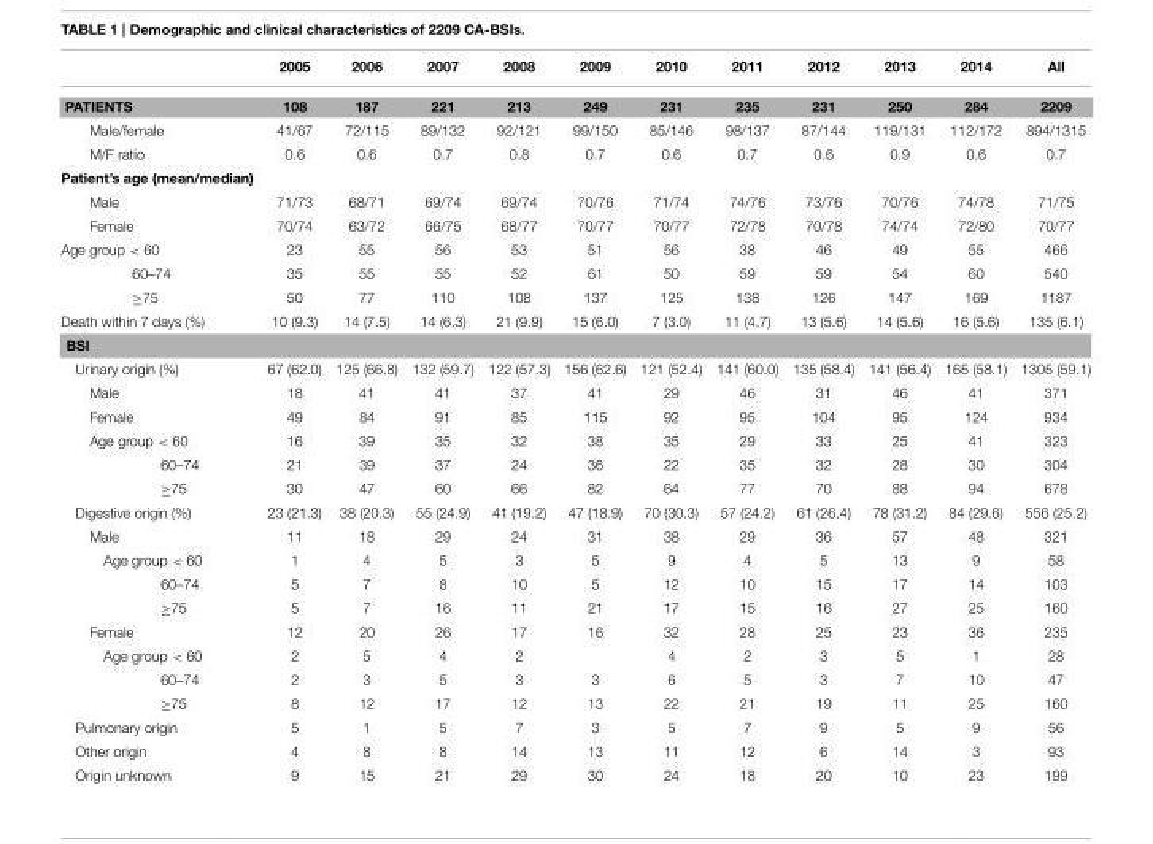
<table><thead><tr><td></td><td>2005</td><td>2006</td><td>2007</td><td>2008</td><td>2009</td><td>2010</td><td>2011</td><td>2012</td><td>2013</td><td>2014</td><td>All</td></tr></thead><tbody><tr><td>PATIENTS</td><td>108</td><td>187</td><td>221</td><td>213</td><td>249</td><td>231</td><td>235</td><td>231</td><td>250</td><td>284</td><td>2209</td></tr><tr><td>Male/female</td><td>41/67</td><td>72/115</td><td>89/132</td><td>92/121</td><td>99/150</td><td>85/146</td><td>98/137</td><td>87/144</td><td>119/131</td><td>112/172</td><td>894/1315</td></tr><tr><td>M/F ratio</td><td>0.6</td><td>0.6</td><td>0.7</td><td>0.8</td><td>0.7</td><td>0.6</td><td>0.7</td><td>0.6</td><td>0.9</td><td>0.6</td><td>0.7</td></tr><tr><td colspan="12">Patient’s age (mean/median)</td></tr><tr><td>Male</td><td>71/73</td><td>68/71</td><td>69/74</td><td>69/74</td><td>70/76</td><td>71/74</td><td>74/76</td><td>73/76</td><td>70/76</td><td>74/78</td><td>71/75</td></tr><tr><td>Female</td><td>70/74</td><td>63/72</td><td>66/75</td><td>68/77</td><td>70/77</td><td>70/77</td><td>72/78</td><td>70/78</td><td>74/74</td><td>72/80</td><td>70/77</td></tr><tr><td>Age group &lt; 60</td><td>23</td><td>55</td><td>56</td><td>53</td><td>51</td><td>56</td><td>38</td><td>46</td><td>49</td><td>55</td><td>466</td></tr><tr><td>60–74</td><td>35</td><td>55</td><td>55</td><td>52</td><td>61</td><td>50</td><td>59</td><td>59</td><td>54</td><td>60</td><td>540</td></tr><tr><td>≥75</td><td>50</td><td>77</td><td>110</td><td>108</td><td>137</td><td>125</td><td>138</td><td>126</td><td>147</td><td>169</td><td>1187</td></tr><tr><td>Death within 7 days (%)</td><td>10 (9.3)</td><td>14 (7.5)</td><td>14 (6.3)</td><td>21 (9.9)</td><td>15 (6.0)</td><td>7 (3.0)</td><td>11 (4.7)</td><td>13 (5.6)</td><td>14 (5.6)</td><td>16 (5.6)</td><td>135 (6.1)</td></tr><tr><td colspan="12">BSI</td></tr><tr><td>Urinary origin (%)</td><td>67 (62.0)</td><td>125 (66.8)</td><td>132 (59.7)</td><td>122 (57.3)</td><td>156 (62.6)</td><td>121 (52.4)</td><td>141 (60.0)</td><td>135 (58.4)</td><td>141 (56.4)</td><td>165 (58.1)</td><td>1305 (59.1)</td></tr><tr><td>Male</td><td>18</td><td>41</td><td>41</td><td>37</td><td>41</td><td>29</td><td>46</td><td>31</td><td>46</td><td>41</td><td>371</td></tr><tr><td>Female</td><td>49</td><td>84</td><td>91</td><td>85</td><td>115</td><td>92</td><td>95</td><td>104</td><td>95</td><td>124</td><td>934</td></tr><tr><td>Age group &lt; 60</td><td>16</td><td>39</td><td>35</td><td>32</td><td>38</td><td>35</td><td>29</td><td>33</td><td>25</td><td>41</td><td>323</td></tr><tr><td>60–74</td><td>21</td><td>39</td><td>37</td><td>24</td><td>36</td><td>22</td><td>35</td><td>32</td><td>28</td><td>30</td><td>304</td></tr><tr><td>≥75</td><td>30</td><td>47</td><td>60</td><td>66</td><td>82</td><td>64</td><td>77</td><td>70</td><td>88</td><td>94</td><td>678</td></tr><tr><td>Digestive origin (%)</td><td>23 (21.3)</td><td>38 (20.3)</td><td>55 (24.9)</td><td>41 (19.2)</td><td>47 (18.9)</td><td>70 (30.3)</td><td>57 (24.2)</td><td>61 (26.4)</td><td>78 (31.2)</td><td>84 (29.6)</td><td>556 (25.2)</td></tr><tr><td>Male</td><td>11</td><td>18</td><td>29</td><td>24</td><td>31</td><td>38</td><td>29</td><td>36</td><td>57</td><td>48</td><td>321</td></tr><tr><td>Age group &lt; 60</td><td>1</td><td>4</td><td>5</td><td>3</td><td>5</td><td>9</td><td>4</td><td>5</td><td>13</td><td>9</td><td>58</td></tr><tr><td>60–74</td><td>5</td><td>7</td><td>8</td><td>10</td><td>5</td><td>12</td><td>10</td><td>15</td><td>17</td><td>14</td><td>103</td></tr><tr><td>≥75</td><td>5</td><td>7</td><td>16</td><td>11</td><td>21</td><td>17</td><td>15</td><td>16</td><td>27</td><td>25</td><td>160</td></tr><tr><td>Female</td><td>12</td><td>20</td><td>26</td><td>17</td><td>16</td><td>32</td><td>28</td><td>25</td><td>23</td><td>36</td><td>235</td></tr><tr><td>Age group &lt; 60</td><td>2</td><td>5</td><td>4</td><td>2</td><td></td><td>4</td><td>2</td><td>3</td><td>5</td><td>1</td><td>28</td></tr><tr><td>60–74</td><td>2</td><td>3</td><td>5</td><td>3</td><td>3</td><td>6</td><td>5</td><td>3</td><td>7</td><td>10</td><td>47</td></tr><tr><td>≥75</td><td>8</td><td>12</td><td>17</td><td>12</td><td>13</td><td>22</td><td>21</td><td>19</td><td>11</td><td>25</td><td>160</td></tr><tr><td>Pulmonary origin</td><td>5</td><td>1</td><td>5</td><td>7</td><td>3</td><td>5</td><td>7</td><td>9</td><td>5</td><td>9</td><td>56</td></tr><tr><td>Other origin</td><td>4</td><td>8</td><td>8</td><td>14</td><td>13</td><td>11</td><td>12</td><td>6</td><td>14</td><td>3</td><td>93</td></tr><tr><td>Origin unknown</td><td>9</td><td>15</td><td>21</td><td>29</td><td>30</td><td>24</td><td>18</td><td>20</td><td>10</td><td>23</td><td>199</td></tr></tbody></table>